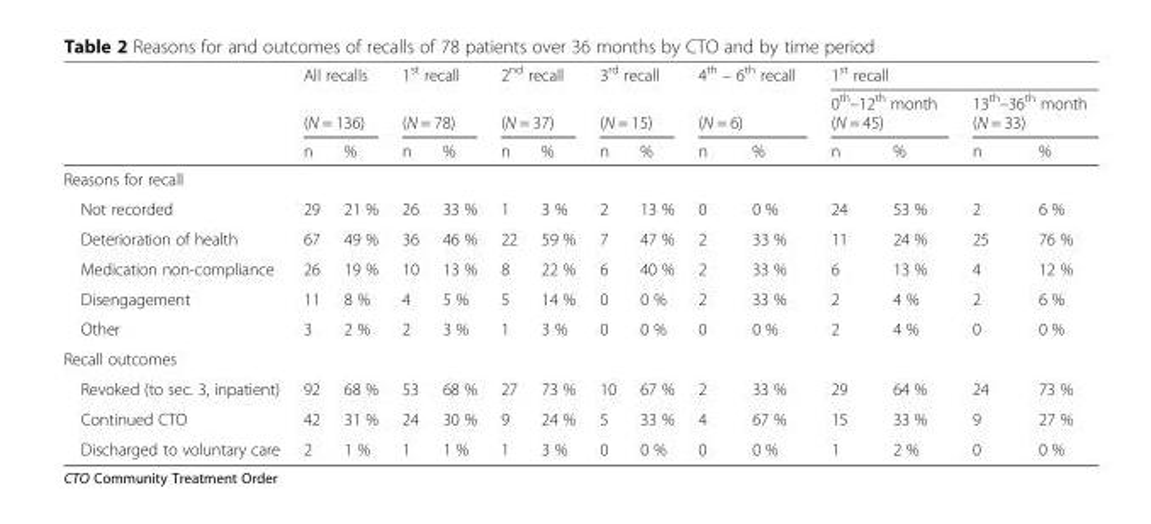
<table><thead><tr><td rowspan="4"></td><td rowspan="3" colspan="2">All recalls (N = 136)</td><td rowspan="3" colspan="2">1<sup>st</sup> recall (N = 78)</td><td rowspan="3" colspan="2">2<sup>nd</sup> recall (N = 37)</td><td rowspan="3" colspan="2">3<sup>rd</sup> recall (N = 15)</td><td rowspan="3" colspan="2">4<sup>th</sup> – 6<sup>th</sup> recall (N = 6)</td><td colspan="4">1<sup>st</sup> recall</td></tr><tr><td rowspan="2" colspan="2">0<sup>th</sup>–12<sup>th</sup> month (N = 45)</td><td rowspan="2" colspan="2">13<sup>th</sup>–36<sup>th</sup> month (N = 33)</td></tr><tr></tr><tr><td>n</td><td>%</td><td>n</td><td>%</td><td>n</td><td>%</td><td>n</td><td>%</td><td>n</td><td>%</td><td>n</td><td>%</td><td>n</td><td>%</td></tr></thead><tbody><tr><td colspan="15">Reasons for recall</td></tr><tr><td>Not recorded</td><td>29</td><td>21 %</td><td>26</td><td>33 %</td><td>1</td><td>3 %</td><td>2</td><td>13 %</td><td>0</td><td>0 %</td><td>24</td><td>53 %</td><td>2</td><td>6 %</td></tr><tr><td>Deterioration of health</td><td>67</td><td>49 %</td><td>36</td><td>46 %</td><td>22</td><td>59 %</td><td>7</td><td>47 %</td><td>2</td><td>33 %</td><td>11</td><td>24 %</td><td>25</td><td>76 %</td></tr><tr><td>Medication non-compliance</td><td>26</td><td>19 %</td><td>10</td><td>13 %</td><td>8</td><td>22 %</td><td>6</td><td>40 %</td><td>2</td><td>33 %</td><td>6</td><td>13 %</td><td>4</td><td>12 %</td></tr><tr><td>Disengagement</td><td>11</td><td>8 %</td><td>4</td><td>5 %</td><td>5</td><td>14 %</td><td>0</td><td>0 %</td><td>2</td><td>33 %</td><td>2</td><td>4 %</td><td>2</td><td>6 %</td></tr><tr><td>Other</td><td>3</td><td>2 %</td><td>2</td><td>3 %</td><td>1</td><td>3 %</td><td>0</td><td>0 %</td><td>0</td><td>0 %</td><td>2</td><td>4 %</td><td>0</td><td>0 %</td></tr><tr><td colspan="15">Recall outcomes</td></tr><tr><td>Revoked (to sec. 3, inpatient)</td><td>92</td><td>68 %</td><td>53</td><td>68 %</td><td>27</td><td>73 %</td><td>10</td><td>67 %</td><td>2</td><td>33 %</td><td>29</td><td>64 %</td><td>24</td><td>73 %</td></tr><tr><td>Continued CTO</td><td>42</td><td>31 %</td><td>24</td><td>30 %</td><td>9</td><td>24 %</td><td>5</td><td>33 %</td><td>4</td><td>67 %</td><td>15</td><td>33 %</td><td>9</td><td>27 %</td></tr><tr><td>Discharged to voluntary care</td><td>2</td><td>1 %</td><td>1</td><td>1 %</td><td>1</td><td>3 %</td><td>0</td><td>0 %</td><td>0</td><td>0 %</td><td>1</td><td>2 %</td><td>0</td><td>0 %</td></tr></tbody></table>